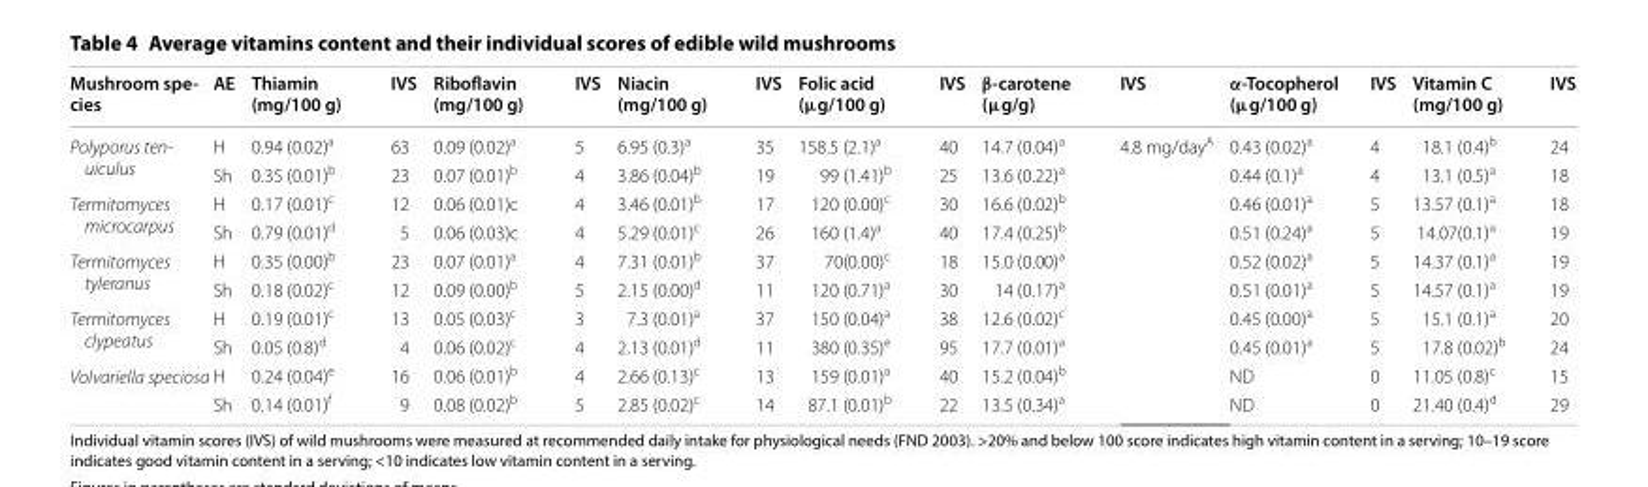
<table><thead><tr><td>Mushroom spe- cies</td><td>AE</td><td>Thiamin (mg/100 g)</td><td>IVS</td><td>Riboflavin (mg/100 g)</td><td>IVS</td><td>Niacin (mg/100 g)</td><td>IVS</td><td>Folic acid (μg/100 g)</td><td>IVS</td><td>β-carotene (μg/g)</td><td>IVS</td><td>α-Tocopherol (μg/100 g)</td><td>IVS</td><td>Vitamin C (mg/100 g)</td><td>IVS</td></tr></thead><tbody><tr><td rowspan="2">Polyporus ten- uiculus</td><td>H</td><td>0.94 (0.02)<sup>a</sup></td><td>63</td><td>0.09 (0.02)<sup>a</sup></td><td>5</td><td>6.95 (0.3)<sup>a</sup></td><td>35</td><td>158.5 (2.1)<sup>a</sup></td><td>40</td><td>14.7 (0.04)<sup>a</sup></td><td rowspan="10">4.8 mg/day<sup>A</sup></td><td>0.43 (0.02)<sup>a</sup></td><td>4</td><td>18.1 (0.4)<sup>b</sup></td><td>24</td></tr><tr><td>Sh</td><td>0.35 (0.01)<sup>b</sup></td><td>23</td><td>0.07 (0.01)<sup>b</sup></td><td>4</td><td>3.86 (0.04)<sup>b</sup></td><td>19</td><td>99 (1.41)<sup>b</sup></td><td>25</td><td>13.6 (0.22)<sup>a</sup></td><td>0.44 (0.1)<sup>a</sup></td><td>4</td><td>13.1 (0.5)<sup>a</sup></td><td>18</td></tr><tr><td rowspan="2">Termitomyces microcarpus</td><td>H</td><td>0.17 (0.01)<sup>c</sup></td><td>12</td><td>0.06 (0.01)c</td><td>4</td><td>3.46 (0.01)<sup>b</sup></td><td>17</td><td>120 (0.00)<sup>c</sup></td><td>30</td><td>16.6 (0.02)<sup>b</sup></td><td>0.46 (0.01)<sup>a</sup></td><td>5</td><td>13.57 (0.1)<sup>a</sup></td><td>18</td></tr><tr><td>Sh</td><td>0.79 (0.01)<sup>d</sup></td><td>5</td><td>0.06 (0.03)c</td><td>4</td><td>5.29 (0.01)<sup>c</sup></td><td>26</td><td>160 (1.4)<sup>a</sup></td><td>40</td><td>17.4 (0.25)<sup>b</sup></td><td>0.51 (0.24)<sup>a</sup></td><td>5</td><td>14.07(0.1)<sup>a</sup></td><td>19</td></tr><tr><td rowspan="2">Termitomyces tyleranus</td><td>H</td><td>0.35 (0.00)<sup>b</sup></td><td>23</td><td>0.07 (0.01)<sup>a</sup></td><td>4</td><td>7.31 (0.01)<sup>b</sup></td><td>37</td><td>70(0.00)<sup>c</sup></td><td>18</td><td>15.0 (0.00)<sup>a</sup></td><td>0.52 (0.02)<sup>a</sup></td><td>5</td><td>14.37 (0.1)<sup>a</sup></td><td>19</td></tr><tr><td>Sh</td><td>0.18 (0.02)<sup>c</sup></td><td>12</td><td>0.09 (0.00)<sup>b</sup></td><td>5</td><td>2.15 (0.00)<sup>d</sup></td><td>11</td><td>120 (0.71)<sup>a</sup></td><td>30</td><td>14 (0.17)<sup>a</sup></td><td>0.51 (0.01)<sup>a</sup></td><td>5</td><td>14.57 (0.1)<sup>a</sup></td><td>19</td></tr><tr><td rowspan="2">Termitomyces clypeatus</td><td>H</td><td>0.19 (0.01)<sup>c</sup></td><td>13</td><td>0.05 (0.03)<sup>c</sup></td><td>3</td><td>7.3 (0.01)<sup>a</sup></td><td>37</td><td>150 (0.04)<sup>a</sup></td><td>38</td><td>12.6 (0.02)<sup>c</sup></td><td>0.45 (0.00)<sup>a</sup></td><td>5</td><td>15.1 (0.1)<sup>a</sup></td><td>20</td></tr><tr><td>Sh</td><td>0.05 (0.8)<sup>d</sup></td><td>4</td><td>0.06 (0.02)<sup>c</sup></td><td>4</td><td>2.13 (0.01)<sup>d</sup></td><td>11</td><td>380 (0.35)<sup>e</sup></td><td>95</td><td>17.7 (0.01)<sup>a</sup></td><td>0.45 (0.01)<sup>a</sup></td><td>5</td><td>17.8 (0.02)<sup>b</sup></td><td>24</td></tr><tr><td rowspan="2">Volvariella speciosa</td><td>H</td><td>0.24 (0.04)<sup>e</sup></td><td>16</td><td>0.06 (0.01)<sup>b</sup></td><td>4</td><td>2.66 (0.13)<sup>c</sup></td><td>13</td><td>159 (0.01)<sup>a</sup></td><td>40</td><td>15.2 (0.04)<sup>b</sup></td><td>ND</td><td>0</td><td>11.05 (0.8)<sup>c</sup></td><td>15</td></tr><tr><td>Sh</td><td>0.14 (0.01)<sup>f</sup></td><td>9</td><td>0.08 (0.02)<sup>b</sup></td><td>5</td><td>2.85 (0.02)<sup>c</sup></td><td>14</td><td>87.1 (0.01)<sup>b</sup></td><td>22</td><td>13.5 (0.34)<sup>a</sup></td><td>ND</td><td>0</td><td>21.40 (0.4)<sup>d</sup></td><td>29</td></tr></tbody></table>